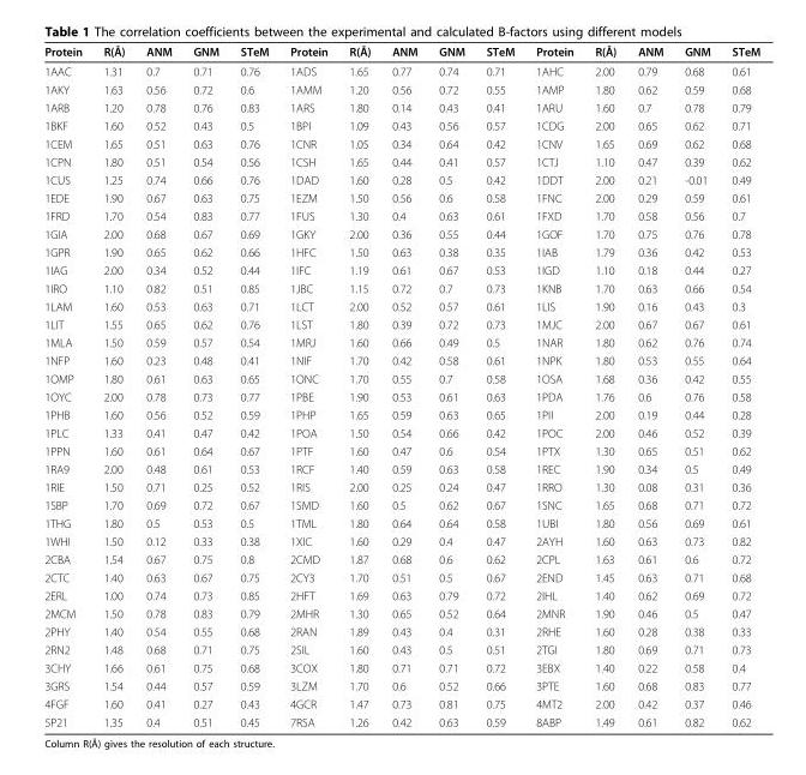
<table><thead><tr><td>Protein</td><td>R(Å)</td><td>ANM</td><td>GNM</td><td>STeM</td><td>Protein</td><td>R(Å)</td><td>ANM</td><td>GNM</td><td>STeM</td><td>Protein</td><td>R(Å)</td><td>ANM</td><td>GNM</td><td>STeM</td></tr></thead><tbody><tr><td>1AAC</td><td>1.31</td><td>0.7</td><td>0.71</td><td>0.76</td><td>1ADS</td><td>1.65</td><td>0.77</td><td>0.74</td><td>0.71</td><td>1AHC</td><td>2.00</td><td>0.79</td><td>0.68</td><td>0.61</td></tr><tr><td>1AKY</td><td>1.63</td><td>0.56</td><td>0.72</td><td>0.6</td><td>1AMM</td><td>1.20</td><td>0.56</td><td>0.72</td><td>0.55</td><td>1AMP</td><td>1.80</td><td>0.62</td><td>0.59</td><td>0.68</td></tr><tr><td>1ARB</td><td>1.20</td><td>0.78</td><td>0.76</td><td>0.83</td><td>1ARS</td><td>1.80</td><td>0.14</td><td>0.43</td><td>0.41</td><td>1ARU</td><td>1.60</td><td>0.7</td><td>0.78</td><td>0.79</td></tr><tr><td>1BKF</td><td>1.60</td><td>0.52</td><td>0.43</td><td>0.5</td><td>1BPI</td><td>1.09</td><td>0.43</td><td>0.56</td><td>0.57</td><td>1CDG</td><td>2.00</td><td>0.65</td><td>0.62</td><td>0.71</td></tr><tr><td>1CEM</td><td>1.65</td><td>0.51</td><td>0.63</td><td>0.76</td><td>1CNR</td><td>1.05</td><td>0.34</td><td>0.64</td><td>0.42</td><td>1CNV</td><td>1.65</td><td>0.69</td><td>0.62</td><td>0.68</td></tr><tr><td>1CPN</td><td>1.80</td><td>0.51</td><td>0.54</td><td>0.56</td><td>1CSH</td><td>1.65</td><td>0.44</td><td>0.41</td><td>0.57</td><td>1CTJ</td><td>1.10</td><td>0.47</td><td>0.39</td><td>0.62</td></tr><tr><td>1CUS</td><td>1.25</td><td>0.74</td><td>0.66</td><td>0.76</td><td>1DAD</td><td>1.60</td><td>0.28</td><td>0.5</td><td>0.42</td><td>1DDT</td><td>2.00</td><td>0.21</td><td>-0.01</td><td>0.49</td></tr><tr><td>1EDE</td><td>1.90</td><td>0.67</td><td>0.63</td><td>0.75</td><td>1EZM</td><td>1.50</td><td>0.56</td><td>0.6</td><td>0.58</td><td>1FNC</td><td>2.00</td><td>0.29</td><td>0.59</td><td>0.61</td></tr><tr><td>1FRD</td><td>1.70</td><td>0.54</td><td>0.83</td><td>0.77</td><td>1FUS</td><td>1.30</td><td>0.4</td><td>0.63</td><td>0.61</td><td>1FXD</td><td>1.70</td><td>0.58</td><td>0.56</td><td>0.7</td></tr><tr><td>1GIA</td><td>2.00</td><td>0.68</td><td>0.67</td><td>0.69</td><td>1GKY</td><td>2.00</td><td>0.36</td><td>0.55</td><td>0.44</td><td>1GOF</td><td>1.70</td><td>0.75</td><td>0.76</td><td>0.78</td></tr><tr><td>1GPR</td><td>1.90</td><td>0.65</td><td>0.62</td><td>0.66</td><td>1HFC</td><td>1.50</td><td>0.63</td><td>0.38</td><td>0.35</td><td>1IAB</td><td>1.79</td><td>0.36</td><td>0.42</td><td>0.53</td></tr><tr><td>1IAG</td><td>2.00</td><td>0.34</td><td>0.52</td><td>0.44</td><td>1IFC</td><td>1.19</td><td>0.61</td><td>0.67</td><td>0.53</td><td>1IGD</td><td>1.10</td><td>0.18</td><td>0.44</td><td>0.27</td></tr><tr><td>1IRO</td><td>1.10</td><td>0.82</td><td>0.51</td><td>0.85</td><td>1JBC</td><td>1.15</td><td>0.72</td><td>0.7</td><td>0.73</td><td>1KNB</td><td>1.70</td><td>0.63</td><td>0.66</td><td>0.54</td></tr><tr><td>1LAM</td><td>1.60</td><td>0.53</td><td>0.63</td><td>0.71</td><td>1LCT</td><td>2.00</td><td>0.52</td><td>0.57</td><td>0.61</td><td>1LIS</td><td>1.90</td><td>0.16</td><td>0.43</td><td>0.3</td></tr><tr><td>1LIT</td><td>1.55</td><td>0.65</td><td>0.62</td><td>0.76</td><td>1LST</td><td>1.80</td><td>0.39</td><td>0.72</td><td>0.73</td><td>1MJC</td><td>2.00</td><td>0.67</td><td>0.67</td><td>0.61</td></tr><tr><td>1MLA</td><td>1.50</td><td>0.59</td><td>0.57</td><td>0.54</td><td>1MRJ</td><td>1.60</td><td>0.66</td><td>0.49</td><td>0.5</td><td>1NAR</td><td>1.80</td><td>0.62</td><td>0.76</td><td>0.74</td></tr><tr><td>1NFP</td><td>1.60</td><td>0.23</td><td>0.48</td><td>0.41</td><td>1NIF</td><td>1.70</td><td>0.42</td><td>0.58</td><td>0.61</td><td>1NPK</td><td>1.80</td><td>0.53</td><td>0.55</td><td>0.64</td></tr><tr><td>1OMP</td><td>1.80</td><td>0.61</td><td>0.63</td><td>0.65</td><td>1ONC</td><td>1.70</td><td>0.55</td><td>0.7</td><td>0.58</td><td>1OSA</td><td>1.68</td><td>0.36</td><td>0.42</td><td>0.55</td></tr><tr><td>1OYC</td><td>2.00</td><td>0.78</td><td>0.73</td><td>0.77</td><td>1PBE</td><td>1.90</td><td>0.53</td><td>0.61</td><td>0.63</td><td>1PDA</td><td>1.76</td><td>0.6</td><td>0.76</td><td>0.58</td></tr><tr><td>1PHB</td><td>1.60</td><td>0.56</td><td>0.52</td><td>0.59</td><td>1PHP</td><td>1.65</td><td>0.59</td><td>0.63</td><td>0.65</td><td>1PII</td><td>2.00</td><td>0.19</td><td>0.44</td><td>0.28</td></tr><tr><td>1PLC</td><td>1.33</td><td>0.41</td><td>0.47</td><td>0.42</td><td>1POA</td><td>1.50</td><td>0.54</td><td>0.66</td><td>0.42</td><td>1POC</td><td>2.00</td><td>0.46</td><td>0.52</td><td>0.39</td></tr><tr><td>1PPN</td><td>1.60</td><td>0.61</td><td>0.64</td><td>0.67</td><td>1PTF</td><td>1.60</td><td>0.47</td><td>0.6</td><td>0.54</td><td>1PTX</td><td>1.30</td><td>0.65</td><td>0.51</td><td>0.62</td></tr><tr><td>1RA9</td><td>2.00</td><td>0.48</td><td>0.61</td><td>0.53</td><td>1RCF</td><td>1.40</td><td>0.59</td><td>0.63</td><td>0.58</td><td>1REC</td><td>1.90</td><td>0.34</td><td>0.5</td><td>0.49</td></tr><tr><td>1RIE</td><td>1.50</td><td>0.71</td><td>0.25</td><td>0.52</td><td>1RIS</td><td>2.00</td><td>0.25</td><td>0.24</td><td>0.47</td><td>1RRO</td><td>1.30</td><td>0.08</td><td>0.31</td><td>0.36</td></tr><tr><td>1SBP</td><td>1.70</td><td>0.69</td><td>0.72</td><td>0.67</td><td>1SMD</td><td>1.60</td><td>0.5</td><td>0.62</td><td>0.67</td><td>1SNC</td><td>1.65</td><td>0.68</td><td>0.71</td><td>0.72</td></tr><tr><td>1THG</td><td>1.80</td><td>0.5</td><td>0.53</td><td>0.5</td><td>1TML</td><td>1.80</td><td>0.64</td><td>0.64</td><td>0.58</td><td>1UBI</td><td>1.80</td><td>0.56</td><td>0.69</td><td>0.61</td></tr><tr><td>1WHI</td><td>1.50</td><td>0.12</td><td>0.33</td><td>0.38</td><td>1XIC</td><td>1.60</td><td>0.29</td><td>0.4</td><td>0.47</td><td>2AYH</td><td>1.60</td><td>0.63</td><td>0.73</td><td>0.82</td></tr><tr><td>2CBA</td><td>1.54</td><td>0.67</td><td>0.75</td><td>0.8</td><td>2CMD</td><td>1.87</td><td>0.68</td><td>0.6</td><td>0.62</td><td>2CPL</td><td>1.63</td><td>0.61</td><td>0.6</td><td>0.72</td></tr><tr><td>2CTC</td><td>1.40</td><td>0.63</td><td>0.67</td><td>0.75</td><td>2CY3</td><td>1.70</td><td>0.51</td><td>0.5</td><td>0.67</td><td>2END</td><td>1.45</td><td>0.63</td><td>0.71</td><td>0.68</td></tr><tr><td>2ERL</td><td>1.00</td><td>0.74</td><td>0.73</td><td>0.85</td><td>2HFT</td><td>1.69</td><td>0.63</td><td>0.79</td><td>0.72</td><td>2IHL</td><td>1.40</td><td>0.62</td><td>0.69</td><td>0.72</td></tr><tr><td>2MCM</td><td>1.50</td><td>0.78</td><td>0.83</td><td>0.79</td><td>2MHR</td><td>1.30</td><td>0.65</td><td>0.52</td><td>0.64</td><td>2MNR</td><td>1.90</td><td>0.46</td><td>0.5</td><td>0.47</td></tr><tr><td>2PHY</td><td>1.40</td><td>0.54</td><td>0.55</td><td>0.68</td><td>2RAN</td><td>1.89</td><td>0.43</td><td>0.4</td><td>0.31</td><td>2RHE</td><td>1.60</td><td>0.28</td><td>0.38</td><td>0.33</td></tr><tr><td>2RN2</td><td>1.48</td><td>0.68</td><td>0.71</td><td>0.75</td><td>2SIL</td><td>1.60</td><td>0.43</td><td>0.5</td><td>0.51</td><td>2TGI</td><td>1.80</td><td>0.69</td><td>0.71</td><td>0.73</td></tr><tr><td>3CHY</td><td>1.66</td><td>0.61</td><td>0.75</td><td>0.68</td><td>3COX</td><td>1.80</td><td>0.71</td><td>0.71</td><td>0.72</td><td>3EBX</td><td>1.40</td><td>0.22</td><td>0.58</td><td>0.4</td></tr><tr><td>3GRS</td><td>1.54</td><td>0.44</td><td>0.57</td><td>0.59</td><td>3LZM</td><td>1.70</td><td>0.6</td><td>0.52</td><td>0.66</td><td>3PTE</td><td>1.60</td><td>0.68</td><td>0.83</td><td>0.77</td></tr><tr><td>4FGF</td><td>1.60</td><td>0.41</td><td>0.27</td><td>0.43</td><td>4GCR</td><td>1.47</td><td>0.73</td><td>0.81</td><td>0.75</td><td>4MT2</td><td>2.00</td><td>0.42</td><td>0.37</td><td>0.46</td></tr><tr><td>5P21</td><td>1.35</td><td>0.4</td><td>0.51</td><td>0.45</td><td>7RSA</td><td>1.26</td><td>0.42</td><td>0.63</td><td>0.59</td><td>8ABP</td><td>1.49</td><td>0.61</td><td>0.82</td><td>0.62</td></tr></tbody></table>